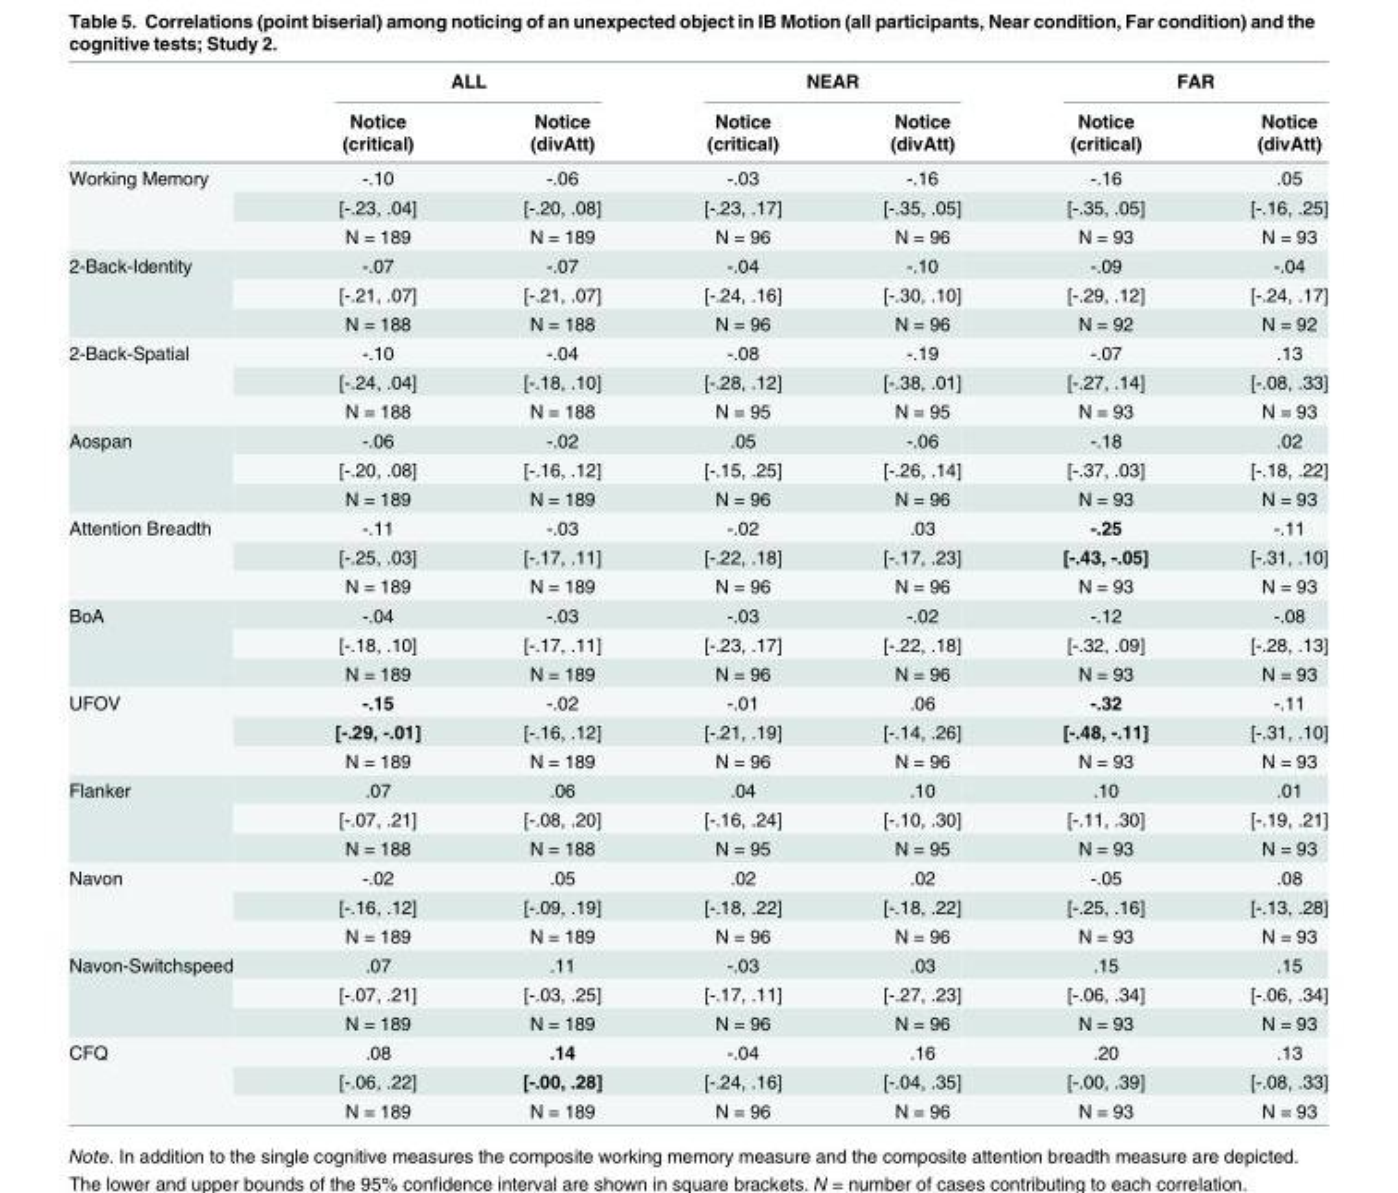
<table><thead><tr><td rowspan="3"></td><td colspan="2">ALL</td><td colspan="2">NEAR</td><td colspan="2">FAR</td></tr><tr><td rowspan="2">Notice (critical)</td><td rowspan="2">Notice (divAtt)</td><td rowspan="2">Notice (critical)</td><td rowspan="2">Notice (divAtt)</td><td rowspan="2">Notice (critical)</td><td rowspan="2">Notice (divAtt)</td></tr><tr></tr></thead><tbody><tr><td rowspan="3">Working Memory</td><td>-.10</td><td>-.06</td><td>-.03</td><td>-.16</td><td>-.16</td><td>.05</td></tr><tr><td>[-.23, .04]</td><td>[-.20, .08]</td><td>[-.23, .17]</td><td>[-.35, .05]</td><td>[-.35, .05]</td><td>[-.16, .25]</td></tr><tr><td>N = 189</td><td>N = 189</td><td>N = 96</td><td>N = 96</td><td>N = 93</td><td>N = 93</td></tr><tr><td rowspan="3">2-Back-Identity</td><td>-.07</td><td>-.07</td><td>-.04</td><td>-.10</td><td>-.09</td><td>-.04</td></tr><tr><td>[-.21, .07]</td><td>[-.21, .07]</td><td>[-.24, .16]</td><td>[-.30, .10]</td><td>[-.29, .12]</td><td>[-.24, .17]</td></tr><tr><td>N = 188</td><td>N = 188</td><td>N = 96</td><td>N = 96</td><td>N = 92</td><td>N = 92</td></tr><tr><td rowspan="3">2-Back-Spatial</td><td>-.10</td><td>-.04</td><td>-.08</td><td>-.19</td><td>-.07</td><td>.13</td></tr><tr><td>[-.24, .04]</td><td>[-.18, .10]</td><td>[-.28, .12]</td><td>[-.38, .01]</td><td>[-.27, .14]</td><td>[-.08, .33]</td></tr><tr><td>N = 188</td><td>N = 188</td><td>N = 95</td><td>N = 95</td><td>N = 93</td><td>N = 93</td></tr><tr><td rowspan="3">Aospan</td><td>-.06</td><td>-.02</td><td>.05</td><td>-.06</td><td>-.18</td><td>.02</td></tr><tr><td>[-.20, .08]</td><td>[-.16, .12]</td><td>[-.15, .25]</td><td>[-.26, .14]</td><td>[-.37, .03]</td><td>[-.18, .22]</td></tr><tr><td>N = 189</td><td>N = 189</td><td>N = 96</td><td>N = 96</td><td>N = 93</td><td>N = 93</td></tr><tr><td rowspan="3">Attention Breadth</td><td>-.11</td><td>-.03</td><td>-.02</td><td>.03</td><td>-.25</td><td>-.11</td></tr><tr><td>[-.25, .03]</td><td>[-.17, .11]</td><td>[-.22, .18]</td><td>[-.17, .23]</td><td>[-.43, -.05]</td><td>[-.31, .10]</td></tr><tr><td>N = 189</td><td>N = 189</td><td>N = 96</td><td>N = 96</td><td>N = 93</td><td>N = 93</td></tr><tr><td rowspan="3">BoA</td><td>-.04</td><td>-.03</td><td>-.03</td><td>-.02</td><td>-.12</td><td>-.08</td></tr><tr><td>[-.18, .10]</td><td>[-.17, .11]</td><td>[-.23, .17]</td><td>[-.22, .18]</td><td>[-.32, .09]</td><td>[-.28, .13]</td></tr><tr><td>N = 189</td><td>N = 189</td><td>N = 96</td><td>N = 96</td><td>N = 93</td><td>N = 93</td></tr><tr><td rowspan="3">UFOV</td><td>-.15</td><td>-.02</td><td>-.01</td><td>.06</td><td>-.32</td><td>-.11</td></tr><tr><td>[-.29, -.01]</td><td>[-.16, .12]</td><td>[-.21, .19]</td><td>[-.14, .26]</td><td>[-.48, -.11]</td><td>[-.31, .10]</td></tr><tr><td>N = 189</td><td>N = 189</td><td>N = 96</td><td>N = 96</td><td>N = 93</td><td>N = 93</td></tr><tr><td rowspan="3">Flanker</td><td>.07</td><td>.06</td><td>.04</td><td>.10</td><td>.10</td><td>.01</td></tr><tr><td>[-.07, .21]</td><td>[-.08, .20]</td><td>[-.16, .24]</td><td>[-.10, .30]</td><td>[-.11, .30]</td><td>[-.19, .21]</td></tr><tr><td>N = 188</td><td>N = 188</td><td>N = 95</td><td>N = 95</td><td>N = 93</td><td>N = 93</td></tr><tr><td rowspan="3">Navon</td><td>-.02</td><td>.05</td><td>.02</td><td>.02</td><td>-.05</td><td>.08</td></tr><tr><td>[-.16, .12]</td><td>[-.09, .19]</td><td>[-.18, .22]</td><td>[-.18, .22]</td><td>[-.25, .16]</td><td>[-.13, .28]</td></tr><tr><td>N = 189</td><td>N = 189</td><td>N = 96</td><td>N = 96</td><td>N = 93</td><td>N = 93</td></tr><tr><td rowspan="3">Navon-Switchspeed</td><td>.07</td><td>.11</td><td>-.03</td><td>.03</td><td>.15</td><td>.15</td></tr><tr><td>[-.07, .21]</td><td>[-.03, .25]</td><td>[-.17, .11]</td><td>[-.27, .23]</td><td>[-.06, .34]</td><td>[-.06, .34]</td></tr><tr><td>N = 189</td><td>N = 189</td><td>N = 96</td><td>N = 96</td><td>N = 93</td><td>N = 93</td></tr><tr><td rowspan="3">CFQ</td><td>.08</td><td>.14</td><td>-.04</td><td>.16</td><td>.20</td><td>.13</td></tr><tr><td>[-.06, .22]</td><td>[-.00, .28]</td><td>[-.24, .16]</td><td>[-.04, .35]</td><td>[-.00, .39]</td><td>[-.08, .33]</td></tr><tr><td>N = 189</td><td>N = 189</td><td>N = 96</td><td>N = 96</td><td>N = 93</td><td>N = 93</td></tr></tbody></table>